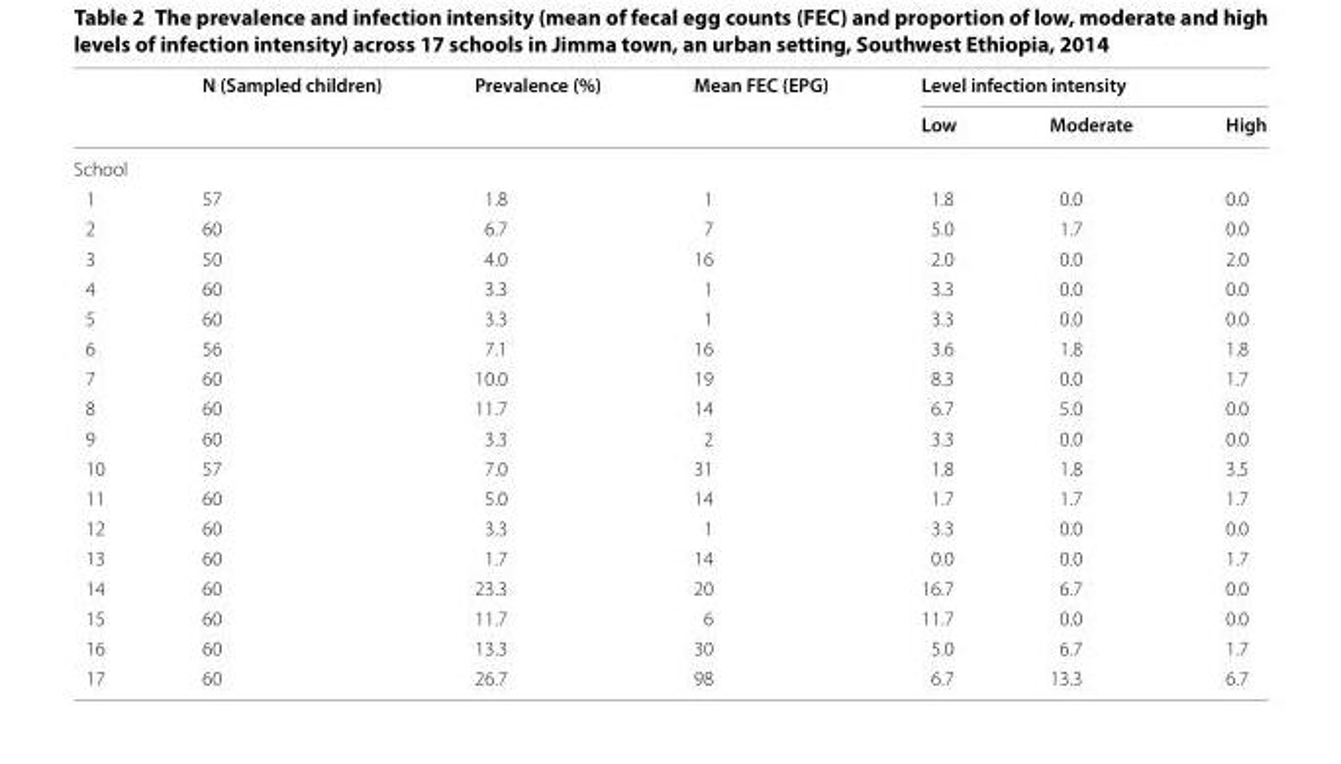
<table><thead><tr><td rowspan="2"></td><td rowspan="2">N (Sampled children)</td><td rowspan="2">Prevalence (%)</td><td rowspan="2">Mean FEC (EPG)</td><td colspan="3">Level infection intensity</td></tr><tr><td>Low</td><td>Moderate</td><td>High</td></tr></thead><tbody><tr><td colspan="7">School</td></tr><tr><td>1</td><td>57</td><td>1.8</td><td>1</td><td>1.8</td><td>0.0</td><td>0.0</td></tr><tr><td>2</td><td>60</td><td>6.7</td><td>7</td><td>5.0</td><td>1.7</td><td>0.0</td></tr><tr><td>3</td><td>50</td><td>4.0</td><td>16</td><td>2.0</td><td>0.0</td><td>2.0</td></tr><tr><td>4</td><td>60</td><td>3.3</td><td>1</td><td>3.3</td><td>0.0</td><td>0.0</td></tr><tr><td>5</td><td>60</td><td>3.3</td><td>1</td><td>3.3</td><td>0.0</td><td>0.0</td></tr><tr><td>6</td><td>56</td><td>7.1</td><td>16</td><td>3.6</td><td>1.8</td><td>1.8</td></tr><tr><td>7</td><td>60</td><td>10.0</td><td>19</td><td>8.3</td><td>0.0</td><td>1.7</td></tr><tr><td>8</td><td>60</td><td>11.7</td><td>14</td><td>6.7</td><td>5.0</td><td>0.0</td></tr><tr><td>9</td><td>60</td><td>3.3</td><td>2</td><td>3.3</td><td>0.0</td><td>0.0</td></tr><tr><td>10</td><td>57</td><td>7.0</td><td>31</td><td>1.8</td><td>1.8</td><td>3.5</td></tr><tr><td>11</td><td>60</td><td>5.0</td><td>14</td><td>1.7</td><td>1.7</td><td>1.7</td></tr><tr><td>12</td><td>60</td><td>3.3</td><td>1</td><td>3.3</td><td>0.0</td><td>0.0</td></tr><tr><td>13</td><td>60</td><td>1.7</td><td>14</td><td>0.0</td><td>0.0</td><td>1.7</td></tr><tr><td>14</td><td>60</td><td>23.3</td><td>20</td><td>16.7</td><td>6.7</td><td>0.0</td></tr><tr><td>15</td><td>60</td><td>11.7</td><td>6</td><td>11.7</td><td>0.0</td><td>0.0</td></tr><tr><td>16</td><td>60</td><td>13.3</td><td>30</td><td>5.0</td><td>6.7</td><td>1.7</td></tr><tr><td>17</td><td>60</td><td>26.7</td><td>98</td><td>6.7</td><td>13.3</td><td>6.7</td></tr></tbody></table>